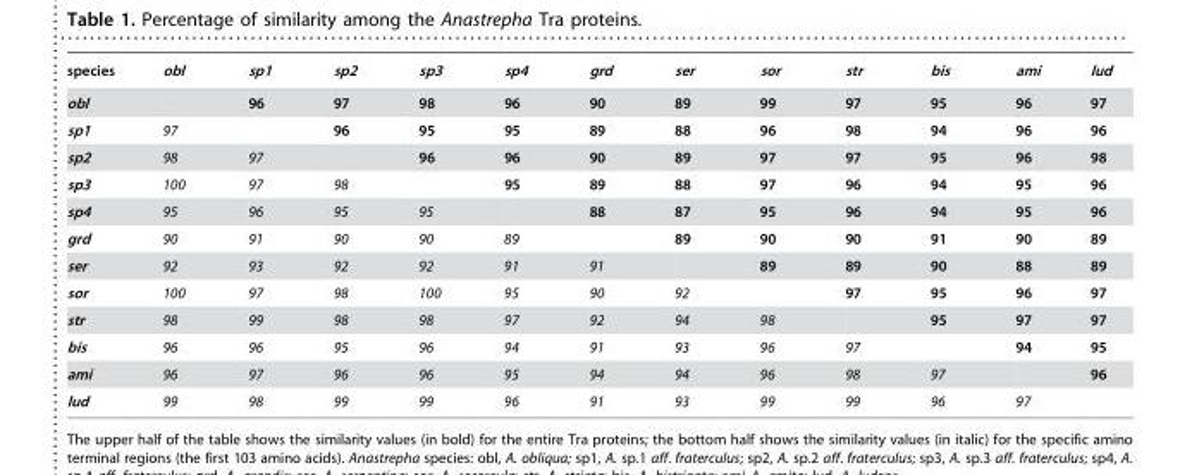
<table><thead><tr><td>species</td><td>obl</td><td>sp1</td><td>sp2</td><td>sp3</td><td>sp4</td><td>grd</td><td>ser</td><td>sor</td><td>str</td><td>bis</td><td>ami</td><td>lud</td></tr></thead><tbody><tr><td>obl</td><td></td><td>96</td><td>97</td><td>98</td><td>96</td><td>90</td><td>89</td><td>99</td><td>97</td><td>95</td><td>96</td><td>97</td></tr><tr><td>sp1</td><td>97</td><td></td><td>96</td><td>95</td><td>95</td><td>89</td><td>88</td><td>96</td><td>98</td><td>94</td><td>96</td><td>96</td></tr><tr><td>sp2</td><td>98</td><td>97</td><td></td><td>96</td><td>96</td><td>90</td><td>89</td><td>97</td><td>97</td><td>95</td><td>96</td><td>98</td></tr><tr><td>sp3</td><td>100</td><td>97</td><td>98</td><td></td><td>95</td><td>89</td><td>88</td><td>97</td><td>96</td><td>94</td><td>95</td><td>96</td></tr><tr><td>sp4</td><td>95</td><td>96</td><td>95</td><td>95</td><td></td><td>88</td><td>87</td><td>95</td><td>96</td><td>94</td><td>95</td><td>96</td></tr><tr><td>grd</td><td>90</td><td>91</td><td>90</td><td>90</td><td>89</td><td></td><td>89</td><td>90</td><td>90</td><td>91</td><td>90</td><td>89</td></tr><tr><td>ser</td><td>92</td><td>93</td><td>92</td><td>92</td><td>91</td><td>91</td><td></td><td>89</td><td>89</td><td>90</td><td>88</td><td>89</td></tr><tr><td>sor</td><td>100</td><td>97</td><td>98</td><td>100</td><td>95</td><td>90</td><td>92</td><td></td><td>97</td><td>95</td><td>96</td><td>97</td></tr><tr><td>str</td><td>98</td><td>99</td><td>98</td><td>98</td><td>97</td><td>92</td><td>94</td><td>98</td><td></td><td>95</td><td>97</td><td>97</td></tr><tr><td>bis</td><td>96</td><td>96</td><td>95</td><td>96</td><td>94</td><td>91</td><td>93</td><td>96</td><td>97</td><td></td><td>94</td><td>95</td></tr><tr><td>ami</td><td>96</td><td>97</td><td>96</td><td>96</td><td>95</td><td>94</td><td>94</td><td>96</td><td>98</td><td>97</td><td></td><td>96</td></tr><tr><td>lud</td><td>99</td><td>98</td><td>99</td><td>99</td><td>96</td><td>91</td><td>93</td><td>99</td><td>99</td><td>96</td><td>97</td><td></td></tr></tbody></table>